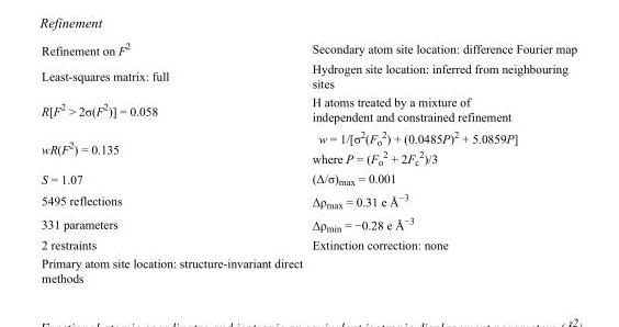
<table><tbody><tr><td>Refinement on F<sup>2</sup></td><td>Secondary atom site location: difference Fourier map</td></tr><tr><td>Least-squares matrix: full</td><td>Hydrogen site location: inferred from neighbouring sites</td></tr><tr><td>R[F<sup>2</sup> &gt; 2σ(F<sup>2</sup>)] = 0.058</td><td>H atoms treated by a mixture of independent and constrained refinement</td></tr><tr><td>wR(F<sup>2</sup>) = 0.135</td><td>w = 1/[σ<sup>2</sup>(F<sub>o</sub> <sup>2</sup>) + (0.0485P)<sup>2</sup> + 5.0859P] where P = (F<sub>o</sub> <sup>2</sup> + 2F<sub>c</sub> <sup>2</sup>)/3</td></tr><tr><td>S = 1.07</td><td>(Δ/σ)<sub>max</sub> = 0.001</td></tr><tr><td>5495 reflections</td><td>Δρ<sub>max</sub> = 0.31 e Å<sup>−3</sup></td></tr><tr><td>331 parameters</td><td>Δρ<sub>min</sub> = −0.28 e Å<sup>−3</sup></td></tr><tr><td>2 restraints</td><td>Extinction correction: none</td></tr><tr><td>Primary atom site location: structure-invariant direct methods</td><td></td></tr></tbody></table>